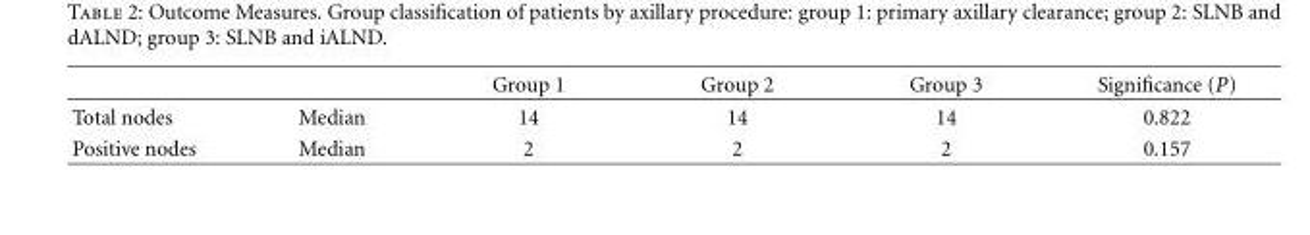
<table><thead><tr><td></td><td></td><td>Group 1</td><td>Group 2</td><td>Group 3</td><td>Significance (P)</td></tr></thead><tbody><tr><td>Total nodes</td><td>Median</td><td>14</td><td>14</td><td>14</td><td>0.822</td></tr><tr><td>Positive nodes</td><td>Median</td><td>2</td><td>2</td><td>2</td><td>0.157</td></tr></tbody></table>